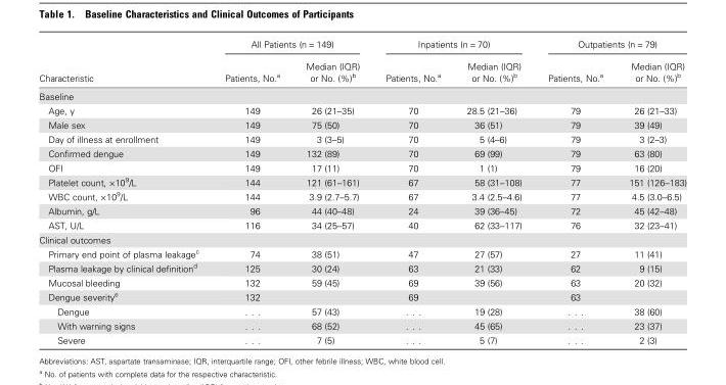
<table><thead><tr><td rowspan="2">Characteristic</td><td colspan="2">All Patients (n = 149)</td><td colspan="2">Inpatients (n = 70)</td><td colspan="2">Outpatients (n = 79)</td></tr><tr><td>Patients, No.<sup>a</sup></td><td>Median (IQR) or No. (%)<sup>b</sup></td><td>Patients, No.<sup>a</sup></td><td>Median (IQR) or No. (%)<sup>b</sup></td><td>Patients, No.<sup>a</sup></td><td>Median (IQR) or No. (%)<sup>b</sup></td></tr></thead><tbody><tr><td colspan="7">Baseline</td></tr><tr><td>Age, y</td><td>149</td><td>26 (21–35)</td><td>70</td><td>28.5 (21–36)</td><td>79</td><td>26 (21–33)</td></tr><tr><td>Male sex</td><td>149</td><td>75 (50)</td><td>70</td><td>36 (51)</td><td>79</td><td>39 (49)</td></tr><tr><td>Day of illness at enrollment</td><td>149</td><td>3 (3–5)</td><td>70</td><td>5 (4–6)</td><td>79</td><td>3 (2–3)</td></tr><tr><td>Confirmed dengue</td><td>149</td><td>132 (89)</td><td>70</td><td>69 (99)</td><td>79</td><td>63 (80)</td></tr><tr><td>OFI</td><td>149</td><td>17 (11)</td><td>70</td><td>1 (1)</td><td>79</td><td>16 (20)</td></tr><tr><td>Platelet count, ×10<sup>9</sup>/L</td><td>144</td><td>121 (61–161)</td><td>67</td><td>58 (31–108)</td><td>77</td><td>151 (126–183)</td></tr><tr><td>WBC count, ×10<sup>9</sup>/L</td><td>144</td><td>3.9 (2.7–5.7)</td><td>67</td><td>3.4 (2.5–4.6)</td><td>77</td><td>4.5 (3.0–6.5)</td></tr><tr><td>Albumin, g/L</td><td>96</td><td>44 (40–48)</td><td>24</td><td>39 (36–45)</td><td>72</td><td>45 (42–48)</td></tr><tr><td>AST, U/L</td><td>116</td><td>34 (25–57)</td><td>40</td><td>62 (33–117)</td><td>76</td><td>32 (23–41)</td></tr><tr><td colspan="7">Clinical outcomes</td></tr><tr><td>Primary end point of plasma leakage<sup>c</sup></td><td>74</td><td>38 (51)</td><td>47</td><td>27 (57)</td><td>27</td><td>11 (41)</td></tr><tr><td>Plasma leakage by clinical definition<sup>d</sup></td><td>125</td><td>30 (24)</td><td>63</td><td>21 (33)</td><td>62</td><td>9 (15)</td></tr><tr><td>Mucosal bleeding</td><td>132</td><td>59 (45)</td><td>69</td><td>39 (56)</td><td>63</td><td>20 (32)</td></tr><tr><td>Dengue severity<sup>e</sup></td><td>132</td><td></td><td>69</td><td></td><td>63</td><td></td></tr><tr><td>Dengue</td><td>. . .</td><td>57 (43)</td><td>. . .</td><td>19 (28)</td><td>. . .</td><td>38 (60)</td></tr><tr><td>With warning signs</td><td>. . .</td><td>68 (52)</td><td>. . .</td><td>45 (65)</td><td>. . .</td><td>23 (37)</td></tr><tr><td>Severe</td><td>. . .</td><td>7 (5)</td><td>. . .</td><td>5 (7)</td><td>. . .</td><td>2 (3)</td></tr></tbody></table>